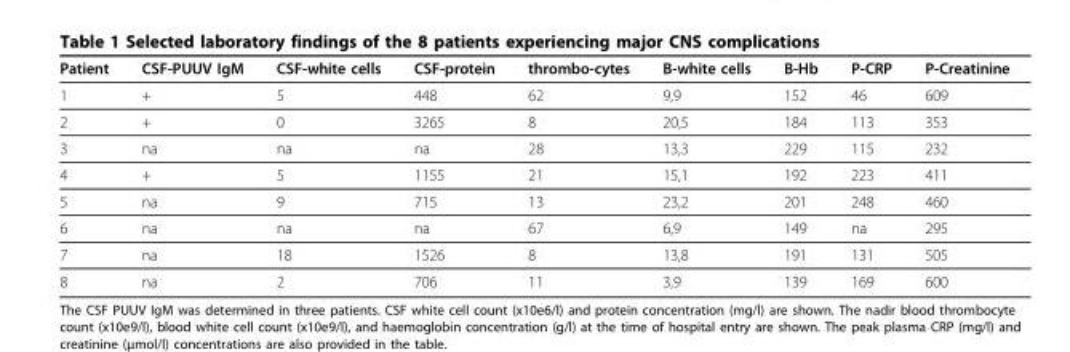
<table><thead><tr><td>Patient</td><td>CSF-PUUV IgM</td><td>CSF-white cells</td><td>CSF-protein</td><td>thrombo-cytes</td><td>B-white cells</td><td>B-Hb</td><td>P-CRP</td><td>P-Creatinine</td></tr></thead><tbody><tr><td>1</td><td>+</td><td>5</td><td>448</td><td>62</td><td>9,9</td><td>152</td><td>46</td><td>609</td></tr><tr><td>2</td><td>+</td><td>0</td><td>3265</td><td>8</td><td>20,5</td><td>184</td><td>113</td><td>353</td></tr><tr><td>3</td><td>na</td><td>na</td><td>na</td><td>28</td><td>13,3</td><td>229</td><td>115</td><td>232</td></tr><tr><td>4</td><td>+</td><td>5</td><td>1155</td><td>21</td><td>15,1</td><td>192</td><td>223</td><td>411</td></tr><tr><td>5</td><td>na</td><td>9</td><td>715</td><td>13</td><td>23,2</td><td>201</td><td>248</td><td>460</td></tr><tr><td>6</td><td>na</td><td>na</td><td>na</td><td>67</td><td>6,9</td><td>149</td><td>na</td><td>295</td></tr><tr><td>7</td><td>na</td><td>18</td><td>1526</td><td>8</td><td>13,8</td><td>191</td><td>131</td><td>505</td></tr><tr><td>8</td><td>na</td><td>2</td><td>706</td><td>11</td><td>3,9</td><td>139</td><td>169</td><td>600</td></tr></tbody></table>